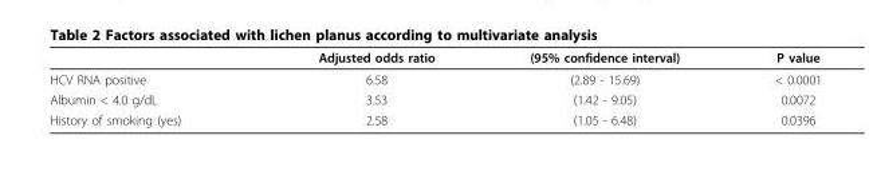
<table><thead><tr><td></td><td>Adjusted odds ratio</td><td>(95% confidence interval)</td><td>P value</td></tr></thead><tbody><tr><td>HCV RNA positive</td><td>6.58</td><td>(2.89 - 15.69)</td><td>&lt; 0.0001</td></tr><tr><td>Albumin &lt; 4.0 g/dL</td><td>3.53</td><td>(1.42 - 9.05)</td><td>0.0072</td></tr><tr><td>History of smoking (yes)</td><td>2.58</td><td>(1.05 - 6.48)</td><td>0.0396</td></tr></tbody></table>